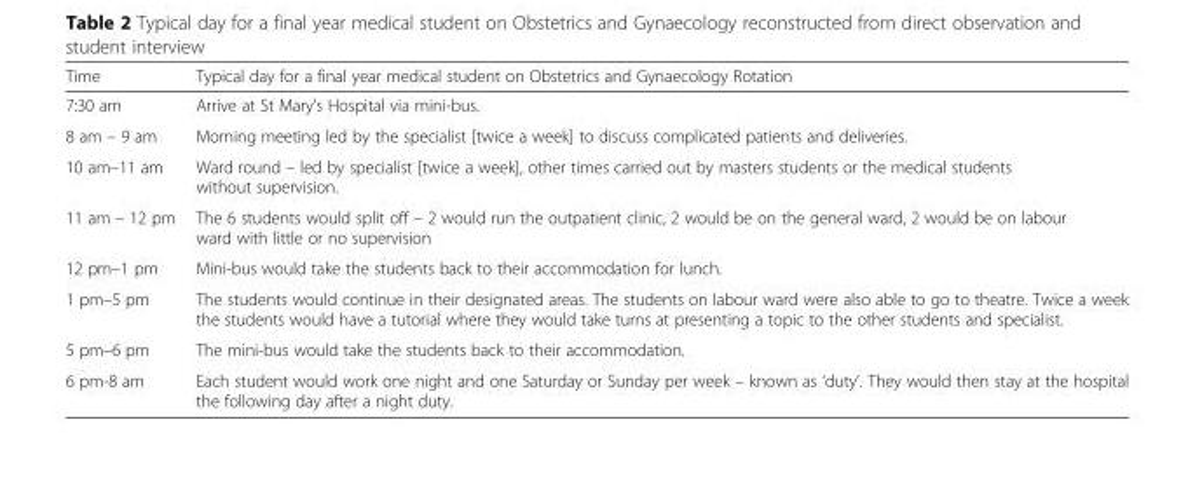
<table><thead><tr><td>Time</td><td>Typical day for a final year medical student on Obstetrics and Gynaecology Rotation</td></tr></thead><tbody><tr><td>7:30 am</td><td>Arrive at St Mary’s Hospital via mini-bus.</td></tr><tr><td>8 am – 9 am</td><td>Morning meeting led by the specialist [twice a week] to discuss complicated patients and deliveries.</td></tr><tr><td>10 am–11 am</td><td>Ward round – led by specialist [twice a week], other times carried out by masters students or the medical students without supervision.</td></tr><tr><td>11 am – 12 pm</td><td>The 6 students would split off – 2 would run the outpatient clinic, 2 would be on the general ward, 2 would be on labour ward with little or no supervision</td></tr><tr><td>12 pm–1 pm</td><td>Mini-bus would take the students back to their accommodation for lunch.</td></tr><tr><td>1 pm–5 pm</td><td>The students would continue in their designated areas. The students on labour ward were also able to go to theatre. Twice a week the students would have a tutorial where they would take turns at presenting a topic to the other students and specialist.</td></tr><tr><td>5 pm–6 pm</td><td>The mini-bus would take the students back to their accommodation.</td></tr><tr><td>6 pm-8 am</td><td>Each student would work one night and one Saturday or Sunday per week – known as ‘duty’. They would then stay at the hospital the following day after a night duty.</td></tr></tbody></table>